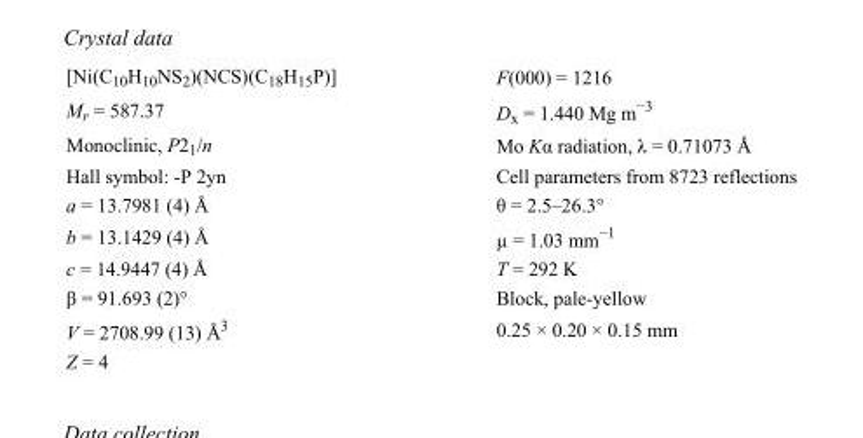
<table><tbody><tr><td>[Ni(C<sub>10</sub>H<sub>10</sub>NS<sub>2</sub>)(NCS)(C<sub>18</sub>H<sub>15</sub>P)]</td><td>F(000) = 1216</td></tr><tr><td>M<sub>r</sub> = 587.37</td><td>D<sub>x</sub> = 1.440 Mg m<sup>−3</sup></td></tr><tr><td>Monoclinic, P2<sub>1</sub>/n</td><td>Mo Kα radiation, λ = 0.71073 Å</td></tr><tr><td>Hall symbol: -P 2yn</td><td>Cell parameters from 8723 reflections</td></tr><tr><td>a = 13.7981 (4) Å</td><td>θ = 2.5–26.3°</td></tr><tr><td>b = 13.1429 (4) Å</td><td>µ = 1.03 mm<sup>−1</sup></td></tr><tr><td>c = 14.9447 (4) Å</td><td>T = 292 K</td></tr><tr><td>β = 91.693 (2)°</td><td>Block, pale-yellow</td></tr><tr><td>V = 2708.99 (13) Å<sup>3</sup></td><td>0.25 × 0.20 × 0.15 mm</td></tr><tr><td>Z = 4</td><td></td></tr></tbody></table>